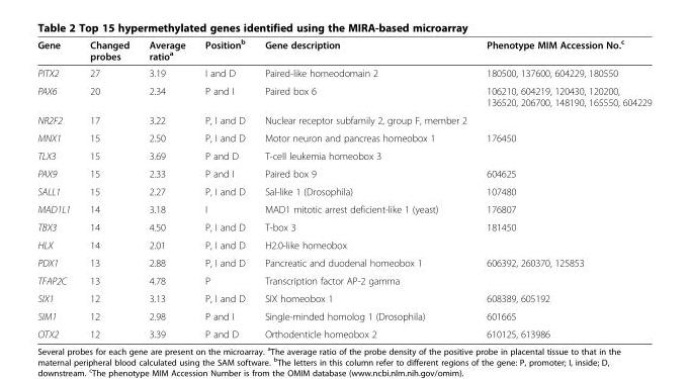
<table><thead><tr><td>Gene</td><td>Changed probes</td><td>Average ratio<sup>a</sup></td><td>Position<sup>b</sup></td><td>Gene description</td><td>Phenotype MIM Accession No.<sup>c</sup></td></tr></thead><tbody><tr><td>PITX2</td><td>27</td><td>3.19</td><td>I and D</td><td>Paired-like homeodomain 2</td><td>180500, 137600, 604229, 180550</td></tr><tr><td>PAX6</td><td>20</td><td>2.34</td><td>P and I</td><td>Paired box 6</td><td>106210, 604219, 120430, 120200, 136520, 206700, 148190, 165550, 604229</td></tr><tr><td>NR2F2</td><td>17</td><td>3.22</td><td>P, I and D</td><td>Nuclear receptor subfamily 2, group F, member 2</td><td></td></tr><tr><td>MNX1</td><td>15</td><td>2.50</td><td>P, I and D</td><td>Motor neuron and pancreas homeobox 1</td><td>176450</td></tr><tr><td>TLX3</td><td>15</td><td>3.69</td><td>P and D</td><td>T-cell leukemia homeobox 3</td><td></td></tr><tr><td>PAX9</td><td>15</td><td>2.33</td><td>P and I</td><td>Paired box 9</td><td>604625</td></tr><tr><td>SALL1</td><td>15</td><td>2.27</td><td>P, I and D</td><td>Sal-like 1 (Drosophila)</td><td>107480</td></tr><tr><td>MAD1L1</td><td>14</td><td>3.18</td><td>I</td><td>MAD1 mitotic arrest deficient-like 1 (yeast)</td><td>176807</td></tr><tr><td>TBX3</td><td>14</td><td>4.50</td><td>P, I and D</td><td>T-box 3</td><td>181450</td></tr><tr><td>HLX</td><td>14</td><td>2.01</td><td>P, I and D</td><td>H2.0-like homeobox</td><td></td></tr><tr><td>PDX1</td><td>13</td><td>2.88</td><td>P, I and D</td><td>Pancreatic and duodenal homeobox 1</td><td>606392, 260370, 125853</td></tr><tr><td>TFAP2C</td><td>13</td><td>4.78</td><td>P</td><td>Transcription factor AP-2 gamma</td><td></td></tr><tr><td>SIX1</td><td>12</td><td>3.13</td><td>P, I and D</td><td>SIX homeobox 1</td><td>608389, 605192</td></tr><tr><td>SIM1</td><td>12</td><td>2.98</td><td>P and I</td><td>Single-minded homolog 1 (Drosophila)</td><td>601665</td></tr><tr><td>OTX2</td><td>12</td><td>3.39</td><td>P and D</td><td>Orthodenticle homeobox 2</td><td>610125, 613986</td></tr></tbody></table>